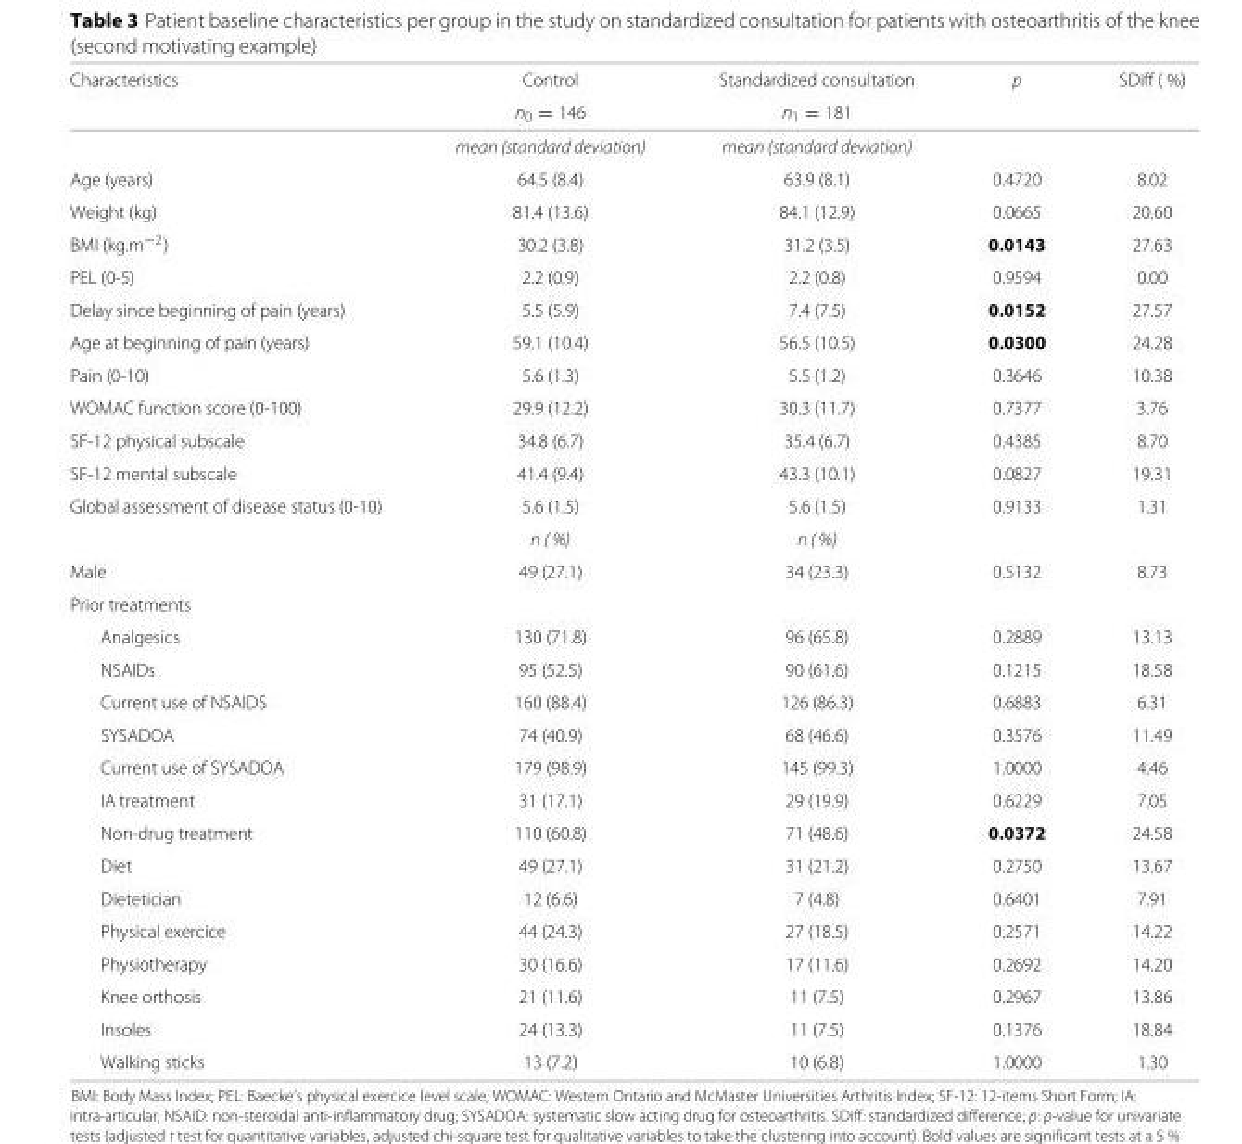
<table><thead><tr><td rowspan="2">Characteristics</td><td rowspan="2">Control n<sub>0</sub> = 146</td><td rowspan="2">Standardized consultation n<sub>1</sub> = 181</td><td rowspan="2">p</td><td rowspan="2">SDiff (</td></tr><tr></tr></thead><tbody><tr><td></td><td>mean (standard deviation)</td><td>mean (standard deviation)</td><td></td><td></td></tr><tr><td>Age (years)</td><td>64.5 (8.4)</td><td>63.9 (8.1)</td><td>0.4720</td><td>8.02</td></tr><tr><td>Weight (kg)</td><td>81.4 (13.6)</td><td>84.1 (12.9)</td><td>0.0665</td><td>20.60</td></tr><tr><td>BMI (kg.m<sup>−2</sup>)</td><td>30.2 (3.8)</td><td>31.2 (3.5)</td><td>0.0143</td><td>27.63</td></tr><tr><td>PEL (0-5)</td><td>2.2 (0.9)</td><td>2.2 (0.8)</td><td>0.9594</td><td>0.00</td></tr><tr><td>Delay since beginning of pain (years)</td><td>5.5 (5.9)</td><td>7.4 (7.5)</td><td>0.0152</td><td>27.57</td></tr><tr><td>Age at beginning of pain (years)</td><td>59.1 (10.4)</td><td>56.5 (10.5)</td><td>0.0300</td><td>24.28</td></tr><tr><td>Pain (0-10)</td><td>5.6 (1.3)</td><td>5.5 (1.2)</td><td>0.3646</td><td>10.38</td></tr><tr><td>WOMAC function score (0-100)</td><td>29.9 (12.2)</td><td>30.3 (11.7)</td><td>0.7377</td><td>3.76</td></tr><tr><td>SF-12 physical subscale</td><td>34.8 (6.7)</td><td>35.4 (6.7)</td><td>0.4385</td><td>8.70</td></tr><tr><td>SF-12 mental subscale</td><td>41.4 (9.4)</td><td>43.3 (10.1)</td><td>0.0827</td><td>19.31</td></tr><tr><td rowspan="2">Global assessment of disease status (0-10)</td><td>5.6 (1.5)</td><td>5.6 (1.5)</td><td>0.9133</td><td>1.31</td></tr><tr><td>n ( %)</td><td>n ( %)</td><td></td><td></td></tr><tr><td>Male</td><td>49 (27.1)</td><td>34 (23.3)</td><td>0.5132</td><td>8.73</td></tr><tr><td colspan="5">Prior treatments</td></tr><tr><td>Analgesics</td><td>130 (71.8)</td><td>96 (65.8)</td><td>0.2889</td><td>13.13</td></tr><tr><td>NSAIDs</td><td>95 (52.5)</td><td>90 (61.6)</td><td>0.1215</td><td>18.58</td></tr><tr><td>Current use of NSAIDS</td><td>160 (88.4)</td><td>126 (86.3)</td><td>0.6883</td><td>6.31</td></tr><tr><td>SYSADOA</td><td>74 (40.9)</td><td>68 (46.6)</td><td>0.3576</td><td>11.49</td></tr><tr><td>Current use of SYSADOA</td><td>179 (98.9)</td><td>145 (99.3)</td><td>1.0000</td><td>4.46</td></tr><tr><td>IA treatment</td><td>31 (17.1)</td><td>29 (19.9)</td><td>0.6229</td><td>7.05</td></tr><tr><td>Non-drug treatment</td><td>110 (60.8)</td><td>71 (48.6)</td><td>0.0372</td><td>24.58</td></tr><tr><td>Diet</td><td>49 (27.1)</td><td>31 (21.2)</td><td>0.2750</td><td>13.67</td></tr><tr><td>Dietetician</td><td>12 (6.6)</td><td>7 (4.8)</td><td>0.6401</td><td>7.91</td></tr><tr><td>Physical exercice</td><td>44 (24.3)</td><td>27 (18.5)</td><td>0.2571</td><td>14.22</td></tr><tr><td>Physiotherapy</td><td>30 (16.6)</td><td>17 (11.6)</td><td>0.2692</td><td>14.20</td></tr><tr><td>Knee orthosis</td><td>21 (11.6)</td><td>11 (7.5)</td><td>0.2967</td><td>13.86</td></tr><tr><td>Insoles</td><td>24 (13.3)</td><td>11 (7.5)</td><td>0.1376</td><td>18.84</td></tr><tr><td>Walking sticks</td><td>13 (7.2)</td><td>10 (6.8)</td><td>1.0000</td><td>1.30</td></tr></tbody></table>